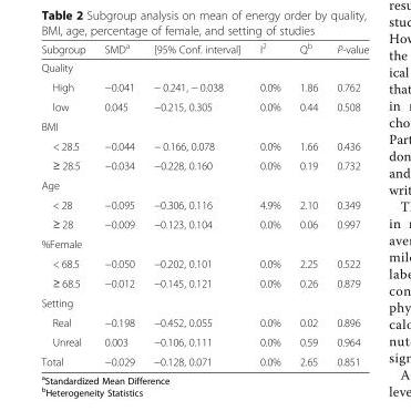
<table><thead><tr><td>Subgroup</td><td>SMD<sup>a</sup></td><td>[95% Conf. interval]</td><td>I<sup>2</sup></td><td>Q<sup>b</sup></td><td>P-value</td></tr></thead><tbody><tr><td colspan="6">Quality</td></tr><tr><td>High</td><td>−0.041</td><td>− 0.241, − 0.038</td><td>0.0%</td><td>1.86</td><td>0.762</td></tr><tr><td>low</td><td>0.045</td><td>−0.215, 0.305</td><td>0.0%</td><td>0.44</td><td>0.508</td></tr><tr><td colspan="6">BMI</td></tr><tr><td>&lt; 28.5</td><td>−0.044</td><td>− 0.166, 0.078</td><td>0.0%</td><td>1.66</td><td>0.436</td></tr><tr><td>≥ 28.5</td><td>−0.034</td><td>−0.228, 0.160</td><td>0.0%</td><td>0.19</td><td>0.732</td></tr><tr><td colspan="6">Age</td></tr><tr><td>&lt; 28</td><td>−0.095</td><td>−0.306, 0.116</td><td>4.9%</td><td>2.10</td><td>0.349</td></tr><tr><td>≥ 28</td><td>−0.009</td><td>−0.123, 0.104</td><td>0.0%</td><td>0.06</td><td>0.997</td></tr><tr><td colspan="6">%Female</td></tr><tr><td>&lt; 68.5</td><td>−0.050</td><td>−0.202, 0.101</td><td>0.0%</td><td>2.25</td><td>0.522</td></tr><tr><td>≥ 68.5</td><td>−0.012</td><td>−0.145, 0.121</td><td>0.0%</td><td>0.26</td><td>0.879</td></tr><tr><td colspan="6">Setting</td></tr><tr><td>Real</td><td>−0.198</td><td>−0.452, 0.055</td><td>0.0%</td><td>0.02</td><td>0.896</td></tr><tr><td>Unreal</td><td>0.003</td><td>−0.106, 0.111</td><td>0.0%</td><td>0.59</td><td>0.964</td></tr><tr><td>Total</td><td>−0.029</td><td>−0.128, 0.071</td><td>0.0%</td><td>2.65</td><td>0.851</td></tr></tbody></table>